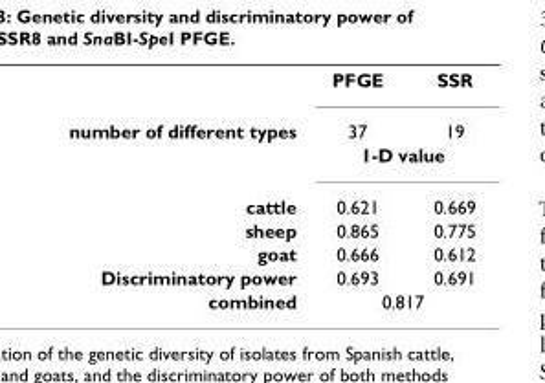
<table><thead><tr><td></td><td>PFGE</td><td>SSR</td></tr></thead><tbody><tr><td rowspan="2">number of different types</td><td>37</td><td>19</td></tr><tr><td colspan="2">1-D value</td></tr><tr><td>cattle</td><td>0.621</td><td>0.669</td></tr><tr><td>sheep</td><td>0.865</td><td>0.775</td></tr><tr><td>goat</td><td>0.666</td><td>0.612</td></tr><tr><td>Discriminatory power</td><td>0.693</td><td>0.691</td></tr><tr><td>combined</td><td colspan="2">0.817</td></tr></tbody></table>